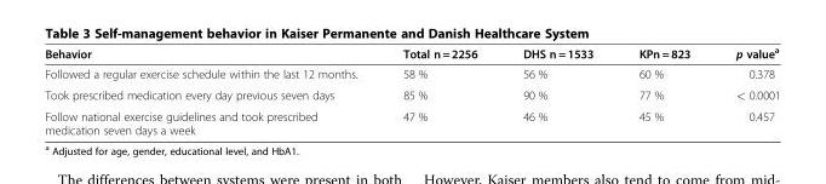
<table><thead><tr><td>Behavior</td><td>Total n = 2256</td><td>DHS n = 1533</td><td>KPn = 823</td><td>p value<sup>a</sup></td></tr></thead><tbody><tr><td>Followed a regular exercise schedule within the last 12 months.</td><td>58 %</td><td>56 %</td><td>60 %</td><td>0.378</td></tr><tr><td>Took prescribed medication every day previous seven days</td><td>85 %</td><td>90 %</td><td>77 %</td><td>&lt; 0.0001</td></tr><tr><td>Follow national exercise guidelines and took prescribed medication seven days a week</td><td>47 %</td><td>46 %</td><td>45 %</td><td>0.457</td></tr></tbody></table>